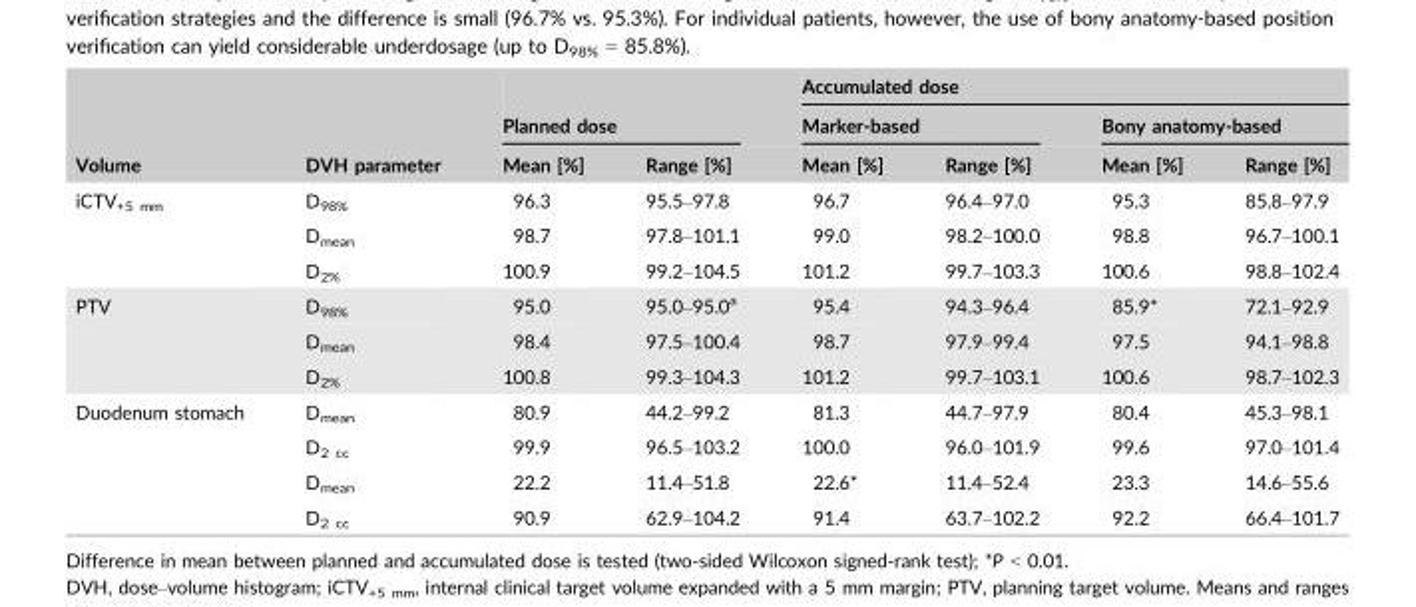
<table><thead><tr><td rowspan="3">Volume</td><td rowspan="3">DVH parameter</td><td rowspan="2" colspan="2">Planned dose</td><td colspan="4">Accumulated dose</td></tr><tr><td colspan="2">Marker-based</td><td colspan="2">Bony anatomy-based</td></tr><tr><td>Mean [%]</td><td>Range [%]</td><td>Mean [%]</td><td>Range [%]</td><td>Mean [%]</td><td>Range [%]</td></tr></thead><tbody><tr><td rowspan="3">iCTV<sub>+5 mm</sub></td><td>D<sub>98%</sub></td><td>96.3</td><td>95.5–97.8</td><td>96.7</td><td>96.4–97.0</td><td>95.3</td><td>85.8–97.9</td></tr><tr><td>D<sub>mean</sub></td><td>98.7</td><td>97.8–101.1</td><td>99.0</td><td>98.2–100.0</td><td>98.8</td><td>96.7–100.1</td></tr><tr><td>D<sub>2%</sub></td><td>100.9</td><td>99.2–104.5</td><td>101.2</td><td>99.7–103.3</td><td>100.6</td><td>98.8–102.4</td></tr><tr><td rowspan="3">PTV</td><td>D<sub>98%</sub></td><td>95.0</td><td>95.0–95.0<sup>a</sup></td><td>95.4</td><td>94.3–96.4</td><td>85.9*</td><td>72.1–92.9</td></tr><tr><td>D<sub>mean</sub></td><td>98.4</td><td>97.5–100.4</td><td>98.7</td><td>97.9–99.4</td><td>97.5</td><td>94.1–98.8</td></tr><tr><td>D<sub>2%</sub></td><td>100.8</td><td>99.3–104.3</td><td>101.2</td><td>99.7–103.1</td><td>100.6</td><td>98.7–102.3</td></tr><tr><td rowspan="4">Duodenum stomach</td><td>D<sub>mean</sub></td><td>80.9</td><td>44.2–99.2</td><td>81.3</td><td>44.7–97.9</td><td>80.4</td><td>45.3–98.1</td></tr><tr><td>D<sub>2 cc</sub></td><td>99.9</td><td>96.5–103.2</td><td>100.0</td><td>96.0–101.9</td><td>99.6</td><td>97.0–101.4</td></tr><tr><td>D<sub>mean</sub></td><td>22.2</td><td>11.4–51.8</td><td>22.6*</td><td>11.4–52.4</td><td>23.3</td><td>14.6–55.6</td></tr><tr><td>D<sub>2 cc</sub></td><td>90.9</td><td>62.9–104.2</td><td>91.4</td><td>63.7–102.2</td><td>92.2</td><td>66.4–101.7</td></tr></tbody></table>